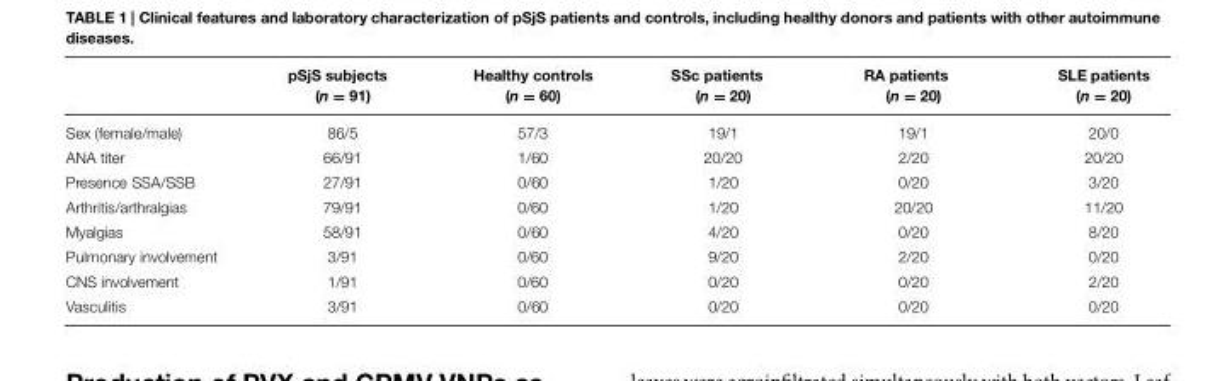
<table><thead><tr><td></td><td>pSjS subjects (n = 91)</td><td>Healthy controls (n = 60)</td><td>SSc patients (n = 20)</td><td>RA patients (n = 20)</td><td>SLE patients (n = 20)</td></tr></thead><tbody><tr><td>Sex (female/male)</td><td>86/5</td><td>57/3</td><td>19/1</td><td>19/1</td><td>20/0</td></tr><tr><td>ANA titer</td><td>66/91</td><td>1/60</td><td>20/20</td><td>2/20</td><td>20/20</td></tr><tr><td>Presence SSA/SSB</td><td>27/91</td><td>0/60</td><td>1/20</td><td>0/20</td><td>3/20</td></tr><tr><td>Arthritis/arthralgias</td><td>79/91</td><td>0/60</td><td>1/20</td><td>20/20</td><td>11/20</td></tr><tr><td>Myalgias</td><td>58/91</td><td>0/60</td><td>4/20</td><td>0/20</td><td>8/20</td></tr><tr><td>Pulmonary involvement</td><td>3/91</td><td>0/60</td><td>9/20</td><td>2/20</td><td>0/20</td></tr><tr><td>CNS involvement</td><td>1/91</td><td>0/60</td><td>0/20</td><td>0/20</td><td>2/20</td></tr><tr><td>Vasculitis</td><td>3/91</td><td>0/60</td><td>0/20</td><td>0/20</td><td>0/20</td></tr></tbody></table>